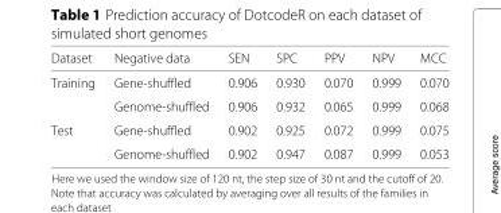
<table><thead><tr><td>Dataset</td><td>Negative data</td><td>SEN</td><td>SPC</td><td>PPV</td><td>NPV</td><td>MCC</td></tr></thead><tbody><tr><td rowspan="2">Training</td><td>Gene-shuffled</td><td>0.906</td><td>0.930</td><td>0.070</td><td>0.999</td><td>0.070</td></tr><tr><td>Genome-shuffled</td><td>0.906</td><td>0.932</td><td>0.065</td><td>0.999</td><td>0.068</td></tr><tr><td rowspan="2">Test</td><td>Gene-shuffled</td><td>0.902</td><td>0.925</td><td>0.072</td><td>0.999</td><td>0.075</td></tr><tr><td>Genome-shuffled</td><td>0.902</td><td>0.947</td><td>0.087</td><td>0.999</td><td>0.053</td></tr></tbody></table>